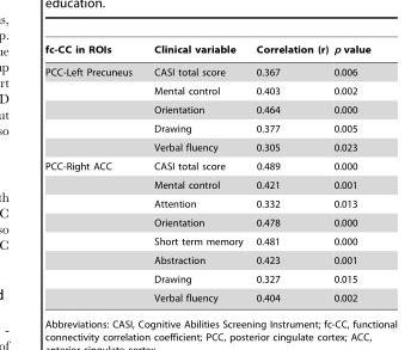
<table><thead><tr><td>fc-CC in ROIs</td><td>Clinical variable</td><td>Correlation (r)</td><td>p value</td></tr></thead><tbody><tr><td rowspan="5">PCC-Left Precuneus</td><td>CASI total score</td><td>0.367</td><td>0.006</td></tr><tr><td>Mental control</td><td>0.403</td><td>0.002</td></tr><tr><td>Orientation</td><td>0.464</td><td>0.000</td></tr><tr><td>Drawing</td><td>0.377</td><td>0.005</td></tr><tr><td>Verbal fluency</td><td>0.305</td><td>0.023</td></tr><tr><td rowspan="8">PCC-Right ACC</td><td>CASI total score</td><td>0.489</td><td>0.000</td></tr><tr><td>Mental control</td><td>0.421</td><td>0.001</td></tr><tr><td>Attention</td><td>0.332</td><td>0.013</td></tr><tr><td>Orientation</td><td>0.478</td><td>0.000</td></tr><tr><td>Short term memory</td><td>0.481</td><td>0.000</td></tr><tr><td>Abstraction</td><td>0.423</td><td>0.001</td></tr><tr><td>Drawing</td><td>0.327</td><td>0.015</td></tr><tr><td>Verbal fluency</td><td>0.404</td><td>0.002</td></tr></tbody></table>